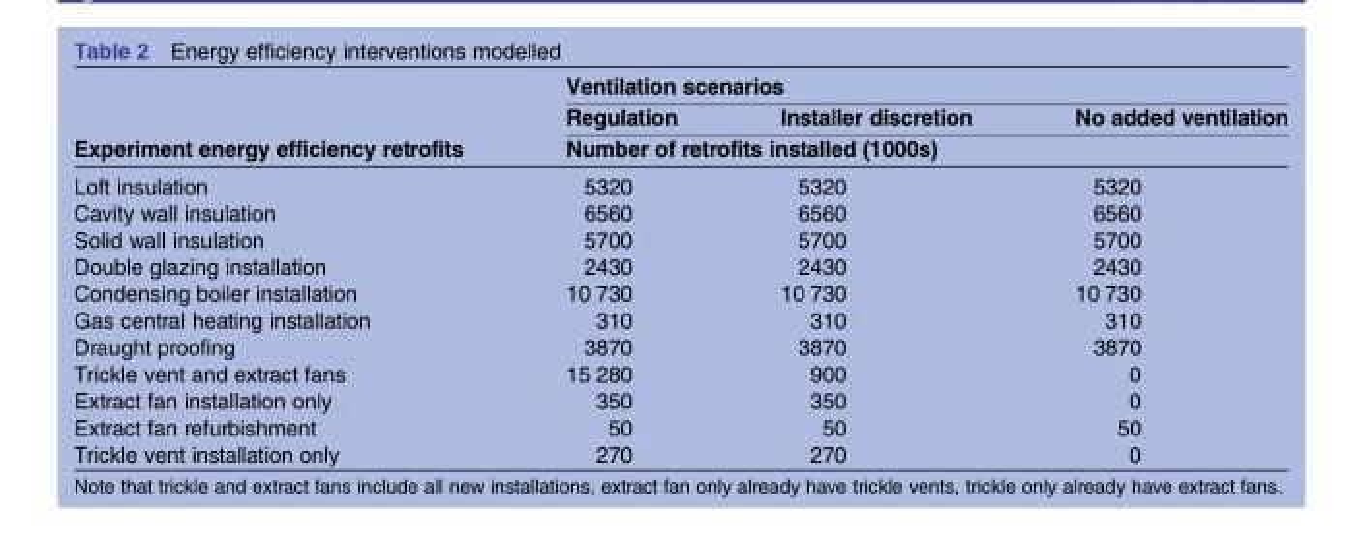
<table><thead><tr><td rowspan="3">Experiment energy efficiency retrofits</td><td colspan="3">Ventilation scenarios</td></tr><tr><td>Regulation</td><td>Installer discretion</td><td>No added ventilation</td></tr><tr><td colspan="3">Number of retrofits installed (1000s)</td></tr></thead><tbody><tr><td>Loft insulation</td><td>5320</td><td>5320</td><td>5320</td></tr><tr><td>Cavity wall insulation</td><td>6560</td><td>6560</td><td>6560</td></tr><tr><td>Solid wall insulation</td><td>5700</td><td>5700</td><td>5700</td></tr><tr><td>Double glazing installation</td><td>2430</td><td>2430</td><td>2430</td></tr><tr><td>Condensing boiler installation</td><td>10 730</td><td>10 730</td><td>10 730</td></tr><tr><td>Gas central heating installation</td><td>310</td><td>310</td><td>310</td></tr><tr><td>Draught proofing</td><td>3870</td><td>3870</td><td>3870</td></tr><tr><td>Trickle vent and extract fans</td><td>15 280</td><td>900</td><td>0</td></tr><tr><td>Extract fan installation only</td><td>350</td><td>350</td><td>0</td></tr><tr><td>Extract fan refurbishment</td><td>50</td><td>50</td><td>50</td></tr><tr><td>Trickle vent installation only</td><td>270</td><td>270</td><td>0</td></tr></tbody></table>